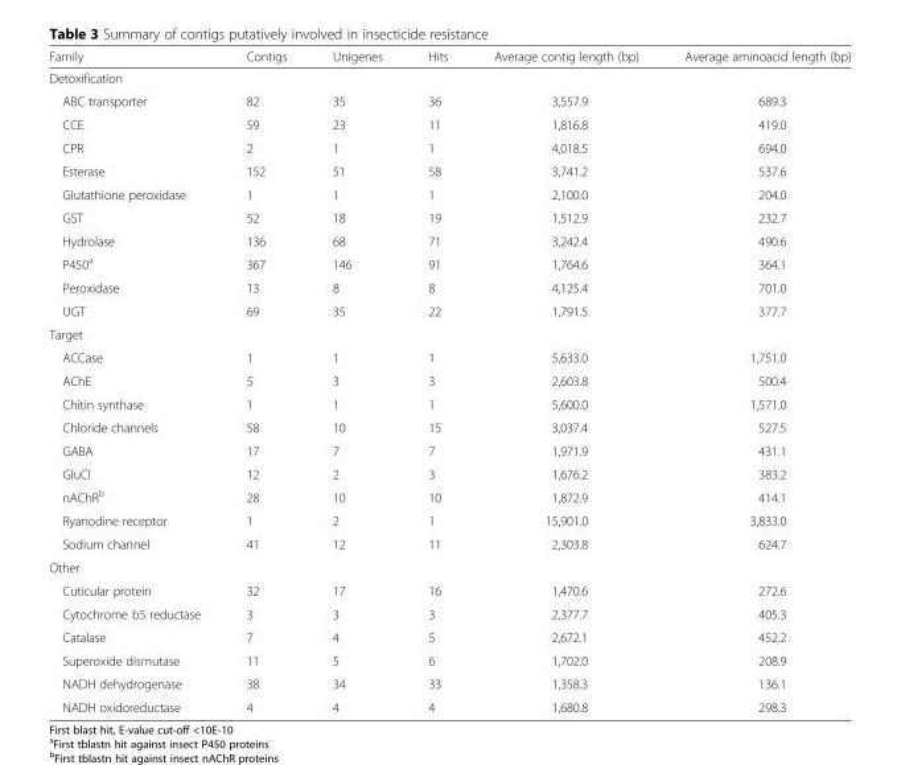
<table><thead><tr><td>Family</td><td>Contigs</td><td>Unigenes</td><td>Hits</td><td>Average contig length (bp)</td><td>Average aminoacid length (bp)</td></tr></thead><tbody><tr><td colspan="6">Detoxification</td></tr><tr><td>ABC transporter</td><td>82</td><td>35</td><td>36</td><td>3,557.9</td><td>689.3</td></tr><tr><td>CCE</td><td>59</td><td>23</td><td>11</td><td>1,816.8</td><td>419.0</td></tr><tr><td>CPR</td><td>2</td><td>1</td><td>1</td><td>4,018.5</td><td>694.0</td></tr><tr><td>Esterase</td><td>152</td><td>51</td><td>58</td><td>3,741.2</td><td>537.6</td></tr><tr><td>Glutathione peroxidase</td><td>1</td><td>1</td><td>1</td><td>2,100.0</td><td>204.0</td></tr><tr><td>GST</td><td>52</td><td>18</td><td>19</td><td>1,512.9</td><td>232.7</td></tr><tr><td>Hydrolase</td><td>136</td><td>68</td><td>71</td><td>3,242.4</td><td>490.6</td></tr><tr><td>P450<sup>a</sup></td><td>367</td><td>146</td><td>91</td><td>1,764.6</td><td>364.1</td></tr><tr><td>Peroxidase</td><td>13</td><td>8</td><td>8</td><td>4,125.4</td><td>701.0</td></tr><tr><td>UGT</td><td>69</td><td>35</td><td>22</td><td>1,791.5</td><td>377.7</td></tr><tr><td colspan="6">Target</td></tr><tr><td>ACCase</td><td>1</td><td>1</td><td>1</td><td>5,633.0</td><td>1,751.0</td></tr><tr><td>AChE</td><td>5</td><td>3</td><td>3</td><td>2,603.8</td><td>500.4</td></tr><tr><td>Chitin synthase</td><td>1</td><td>1</td><td>1</td><td>5,600.0</td><td>1,571.0</td></tr><tr><td>Chloride channels</td><td>58</td><td>10</td><td>15</td><td>3,037.4</td><td>527.5</td></tr><tr><td>GABA</td><td>17</td><td>7</td><td>7</td><td>1,971.9</td><td>431.1</td></tr><tr><td>GluCl</td><td>12</td><td>2</td><td>3</td><td>1,676.2</td><td>383.2</td></tr><tr><td>nAChR<sup>b</sup></td><td>28</td><td>10</td><td>10</td><td>1,872.9</td><td>414.1</td></tr><tr><td>Ryanodine receptor</td><td>1</td><td>2</td><td>1</td><td>15,901.0</td><td>3,833.0</td></tr><tr><td>Sodium channel</td><td>41</td><td>12</td><td>11</td><td>2,303.8</td><td>624.7</td></tr><tr><td colspan="6">Other</td></tr><tr><td>Cuticular protein</td><td>32</td><td>17</td><td>16</td><td>1,470.6</td><td>272.6</td></tr><tr><td>Cytochrome b5 reductase</td><td>3</td><td>3</td><td>3</td><td>2,377.7</td><td>405.3</td></tr><tr><td>Catalase</td><td>7</td><td>4</td><td>5</td><td>2,672.1</td><td>452.2</td></tr><tr><td>Superoxide dismutase</td><td>11</td><td>5</td><td>6</td><td>1,702.0</td><td>208.9</td></tr><tr><td>NADH dehydrogenase</td><td>38</td><td>34</td><td>33</td><td>1,358.3</td><td>136.1</td></tr><tr><td>NADH oxidoreductase</td><td>4</td><td>4</td><td>4</td><td>1,680.8</td><td>298.3</td></tr></tbody></table>